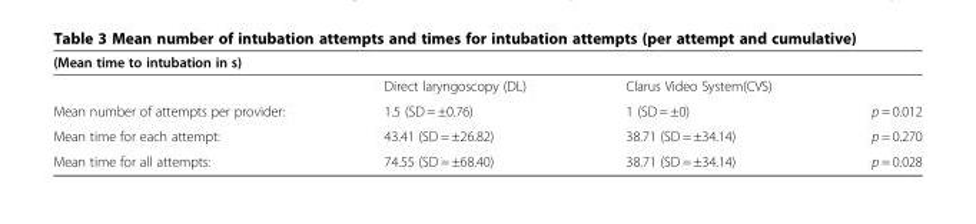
<table><thead><tr><td colspan="4">(Mean time to intubation in s)</td></tr><tr><td></td><td>Direct laryngoscopy (DL)</td><td>Clarus Video System(CVS)</td><td></td></tr></thead><tbody><tr><td>Mean number of attempts per provider:</td><td>1.5 (SD = ±0.76)</td><td>1 (SD = ±0)</td><td>p = 0.012</td></tr><tr><td>Mean time for each attempt:</td><td>43.41 (SD = ±26.82)</td><td>38.71 (SD = ±34.14)</td><td>p = 0.270</td></tr><tr><td>Mean time for all attempts:</td><td>74.55 (SD = ±68.40)</td><td>38.71 (SD = ±34.14)</td><td>p = 0.028</td></tr></tbody></table>